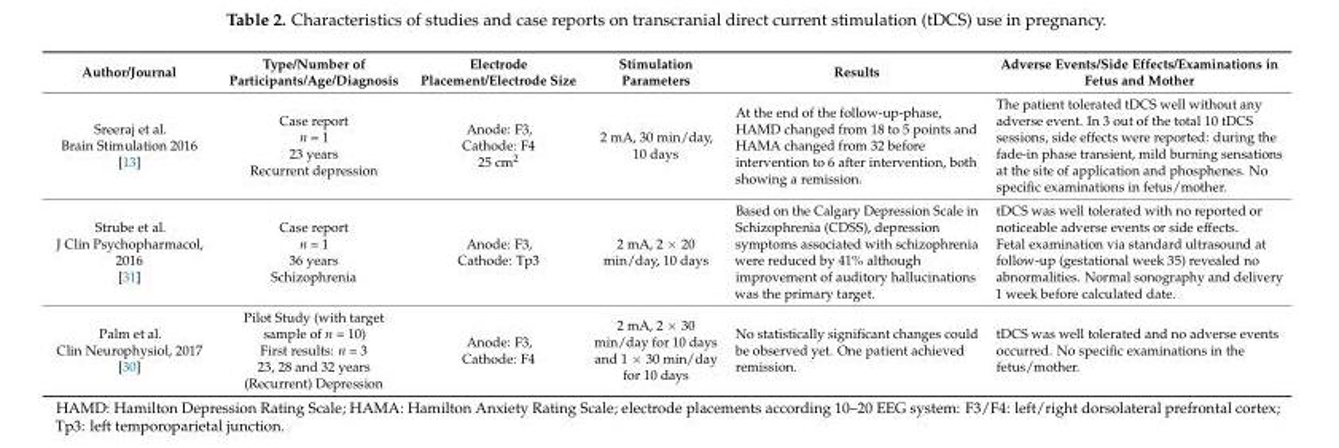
<table><thead><tr><td>Author/Journal</td><td>Type/Number of Participants/Age/Diagnosis</td><td>Electrode Placement/Electrode Size</td><td>Stimulation Parameters</td><td>Results</td><td>Adverse Events/Side Effects/Examinations in Fetus and Mother</td></tr></thead><tbody><tr><td>Sreeraj et al. Brain Stimulation 2016 [13]</td><td>Case report n = 1 23 years Recurrent depression</td><td>Anode: F3, Cathode: F4 25 cm<sup>2</sup></td><td>2 mA, 30 min/day, 10 days</td><td>At the end of the follow-up-phase, HAMD changed from 18 to 5 points and HAMA changed from 32 before intervention to 6 after intervention, both showing a remission.</td><td>The patient tolerated tDCS well without any adverse event. In 3 out of the total 10 tDCS sessions, side effects were reported: during the fade-in phase transient, mild burning sensations at the site of application and phosphenes. No specific examinations in fetus/mother.</td></tr><tr><td>Strube et al. J Clin Psychopharmacol, 2016 [31]</td><td>Case report n = 1 36 years Schizophrenia</td><td>Anode: F3, Cathode: Tp3</td><td>2 mA, 2 × 20 min/day, 10 days</td><td>Based on the Calgary Depression Scale in Schizophrenia (CDSS), depression symptoms associated with schizophrenia were reduced by 41% although improvement of auditory hallucinations was the primary target.</td><td>tDCS was well tolerated with no reported or noticeable adverse events or side effects. Fetal examination via standard ultrasound at follow-up (gestational week 35) revealed no abnormalities. Normal sonography and delivery 1 week before calculated date.</td></tr><tr><td>Palm et al. Clin Neurophysiol, 2017 [30]</td><td>Pilot Study (with target sample of n = 10) First results: n = 3 23, 28 and 32 years (Recurrent) Depression</td><td>Anode: F3, Cathode: F4</td><td>2 mA, 2 × 30 min/day for 10 days and 1 × 30 min/day for 10 days</td><td>No statistically significant changes could be observed yet. One patient achieved remission.</td><td>tDCS was well tolerated and no adverse events occurred. No specific examinations in the fetus/mother.</td></tr></tbody></table>